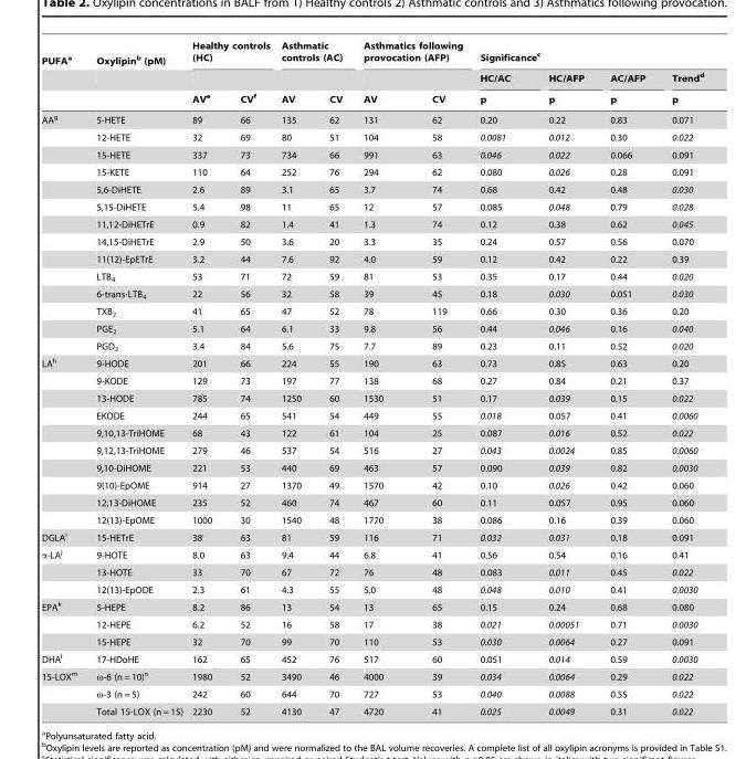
<table><thead><tr><td rowspan="3">PUFA<sup>a</sup></td><td rowspan="3">Oxylipin<sup>b</sup> (pM)</td><td colspan="2">Healthy controls (HC)</td><td colspan="2">Asthmatic controls (AC)</td><td colspan="2">Asthmatics following provocation (AFP)</td><td colspan="4">Significance<sup>c</sup></td></tr><tr><td rowspan="2">AV<sup>e</sup></td><td rowspan="2">CV<sup>f</sup></td><td rowspan="2">AV</td><td rowspan="2">CV</td><td rowspan="2">AV</td><td rowspan="2">CV</td><td rowspan="2">HC/AC p</td><td rowspan="2">HC/AFP p</td><td rowspan="2">AC/AFP p</td><td rowspan="2">Trend<sup>d</sup> p</td></tr><tr></tr></thead><tbody><tr><td rowspan="14">AA<sup>g</sup></td><td>5-HETE</td><td>89</td><td>66</td><td>135</td><td>62</td><td>131</td><td>62</td><td>0.20</td><td>0.22</td><td>0.83</td><td>0.071</td></tr><tr><td>12-HETE</td><td>32</td><td>69</td><td>80</td><td>51</td><td>104</td><td>58</td><td>0.0081</td><td>0.012</td><td>0.30</td><td>0.022</td></tr><tr><td>15-HETE</td><td>337</td><td>73</td><td>734</td><td>66</td><td>991</td><td>63</td><td>0.046</td><td>0.022</td><td>0.066</td><td>0.091</td></tr><tr><td>15-KETE</td><td>110</td><td>64</td><td>252</td><td>76</td><td>294</td><td>62</td><td>0.080</td><td>0.026</td><td>0.28</td><td>0.091</td></tr><tr><td>5,6-DiHETE</td><td>2.6</td><td>89</td><td>3.1</td><td>65</td><td>3.7</td><td>74</td><td>0.68</td><td>0.42</td><td>0.48</td><td>0.030</td></tr><tr><td>5,15-DiHETE</td><td>5.4</td><td>98</td><td>11</td><td>65</td><td>12</td><td>57</td><td>0.085</td><td>0.048</td><td>0.79</td><td>0.028</td></tr><tr><td>11,12-DiHETrE</td><td>0.9</td><td>82</td><td>1.4</td><td>41</td><td>1.3</td><td>74</td><td>0.12</td><td>0.38</td><td>0.62</td><td>0.045</td></tr><tr><td>14,15-DiHETrE</td><td>2.9</td><td>50</td><td>3.6</td><td>20</td><td>3.3</td><td>35</td><td>0.24</td><td>0.57</td><td>0.56</td><td>0.070</td></tr><tr><td>11(12)-EpETrE</td><td>3.2</td><td>44</td><td>7.6</td><td>92</td><td>4.0</td><td>59</td><td>0.12</td><td>0.42</td><td>0.22</td><td>0.39</td></tr><tr><td>LTB<sub>4</sub></td><td>53</td><td>71</td><td>72</td><td>59</td><td>81</td><td>53</td><td>0.35</td><td>0.17</td><td>0.44</td><td>0.020</td></tr><tr><td>6-trans-LTB<sub>4</sub></td><td>22</td><td>56</td><td>32</td><td>58</td><td>39</td><td>45</td><td>0.18</td><td>0.030</td><td>0.051</td><td>0.030</td></tr><tr><td>TXB<sub>2</sub></td><td>41</td><td>65</td><td>47</td><td>52</td><td>78</td><td>119</td><td>0.66</td><td>0.30</td><td>0.36</td><td>0.20</td></tr><tr><td>PGE<sub>2</sub></td><td>5.1</td><td>64</td><td>6.1</td><td>33</td><td>9.8</td><td>56</td><td>0.44</td><td>0.046</td><td>0.16</td><td>0.040</td></tr><tr><td>PGD<sub>2</sub></td><td>3.4</td><td>84</td><td>5.6</td><td>75</td><td>7.7</td><td>89</td><td>0.23</td><td>0.11</td><td>0.52</td><td>0.020</td></tr><tr><td rowspan="10">LA<sup>h</sup></td><td>9-HODE</td><td>201</td><td>66</td><td>224</td><td>55</td><td>190</td><td>63</td><td>0.73</td><td>0.85</td><td>0.63</td><td>0.20</td></tr><tr><td>9-KODE</td><td>129</td><td>73</td><td>197</td><td>77</td><td>138</td><td>68</td><td>0.27</td><td>0.84</td><td>0.21</td><td>0.37</td></tr><tr><td>13-HODE</td><td>785</td><td>74</td><td>1250</td><td>60</td><td>1530</td><td>51</td><td>0.17</td><td>0.039</td><td>0.15</td><td>0.022</td></tr><tr><td>EKODE</td><td>244</td><td>65</td><td>541</td><td>54</td><td>449</td><td>55</td><td>0.018</td><td>0.057</td><td>0.41</td><td>0.0060</td></tr><tr><td>9,10,13-TriHOME</td><td>68</td><td>43</td><td>122</td><td>61</td><td>104</td><td>25</td><td>0.087</td><td>0.016</td><td>0.52</td><td>0.022</td></tr><tr><td>9,12,13-TriHOME</td><td>279</td><td>46</td><td>537</td><td>54</td><td>516</td><td>27</td><td>0.043</td><td>0.0024</td><td>0.85</td><td>0.0060</td></tr><tr><td>9,10-DiHOME</td><td>221</td><td>53</td><td>440</td><td>69</td><td>463</td><td>57</td><td>0.090</td><td>0.039</td><td>0.82</td><td>0.0030</td></tr><tr><td>9(10)-EpOME</td><td>914</td><td>27</td><td>1370</td><td>49</td><td>1570</td><td>42</td><td>0.10</td><td>0.026</td><td>0.42</td><td>0.060</td></tr><tr><td>12,13-DiHOME</td><td>235</td><td>52</td><td>460</td><td>74</td><td>467</td><td>60</td><td>0.11</td><td>0.057</td><td>0.95</td><td>0.060</td></tr><tr><td>12(13)-EpOME</td><td>1000</td><td>30</td><td>1540</td><td>48</td><td>1770</td><td>38</td><td>0.086</td><td>0.16</td><td>0.39</td><td>0.060</td></tr><tr><td>DGLA<sup>i</sup></td><td>15-HETrE</td><td>38</td><td>63</td><td>81</td><td>59</td><td>116</td><td>71</td><td>0.032</td><td>0.031</td><td>0.18</td><td>0.091</td></tr><tr><td rowspan="3">α-LA<sup>j</sup></td><td>9-HOTE</td><td>8.0</td><td>63</td><td>9.4</td><td>44</td><td>6.8</td><td>41</td><td>0.56</td><td>0.54</td><td>0.16</td><td>0.41</td></tr><tr><td>13-HOTE</td><td>33</td><td>70</td><td>67</td><td>72</td><td>76</td><td>48</td><td>0.083</td><td>0.011</td><td>0.45</td><td>0.022</td></tr><tr><td>12(13)-EpODE</td><td>2.3</td><td>61</td><td>4.3</td><td>55</td><td>5.0</td><td>48</td><td>0.048</td><td>0.010</td><td>0.41</td><td>0.0030</td></tr><tr><td rowspan="3">EPA<sup>k</sup></td><td>5-HEPE</td><td>8.2</td><td>86</td><td>13</td><td>54</td><td>13</td><td>65</td><td>0.15</td><td>0.24</td><td>0.68</td><td>0.080</td></tr><tr><td>12-HEPE</td><td>6.2</td><td>52</td><td>16</td><td>58</td><td>17</td><td>38</td><td>0.021</td><td>0.00051</td><td>0.71</td><td>0.0030</td></tr><tr><td>15-HEPE</td><td>32</td><td>70</td><td>99</td><td>70</td><td>110</td><td>53</td><td>0.030</td><td>0.0064</td><td>0.27</td><td>0.091</td></tr><tr><td>DHA<sup>l</sup></td><td>17-HDoHE</td><td>162</td><td>65</td><td>452</td><td>76</td><td>517</td><td>60</td><td>0.051</td><td>0.014</td><td>0.59</td><td>0.0030</td></tr><tr><td rowspan="3">15-LOX<sup>m</sup></td><td>ω-6 (n = 10)<sup>n</sup></td><td>1980</td><td>52</td><td>3490</td><td>46</td><td>4000</td><td>39</td><td>0.034</td><td>0.0064</td><td>0.29</td><td>0.022</td></tr><tr><td>ω-3 (n = 5)</td><td>242</td><td>60</td><td>644</td><td>70</td><td>727</td><td>53</td><td>0.040</td><td>0.0088</td><td>0.55</td><td>0.022</td></tr><tr><td>Total 15-LOX (n = 15)</td><td>2230</td><td>52</td><td>4130</td><td>47</td><td>4720</td><td>41</td><td>0.025</td><td>0.0049</td><td>0.31</td><td>0.022</td></tr></tbody></table>